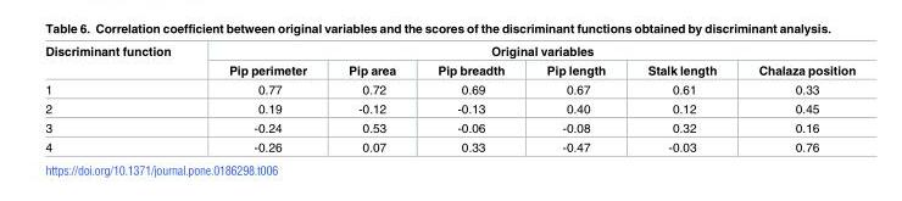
<table><thead><tr><td rowspan="2">Discriminant function</td><td colspan="6">Original variables</td></tr><tr><td>Pip perimeter</td><td>Pip area</td><td>Pip breadth</td><td>Pip length</td><td>Stalk length</td><td>Chalaza position</td></tr></thead><tbody><tr><td>1</td><td>0.77</td><td>0.72</td><td>0.69</td><td>0.67</td><td>0.61</td><td>0.33</td></tr><tr><td>2</td><td>0.19</td><td>-0.12</td><td>-0.13</td><td>0.40</td><td>0.12</td><td>0.45</td></tr><tr><td>3</td><td>-0.24</td><td>0.53</td><td>-0.06</td><td>-0.08</td><td>0.32</td><td>0.16</td></tr><tr><td>4</td><td>-0.26</td><td>0.07</td><td>0.33</td><td>-0.47</td><td>-0.03</td><td>0.76</td></tr></tbody></table>